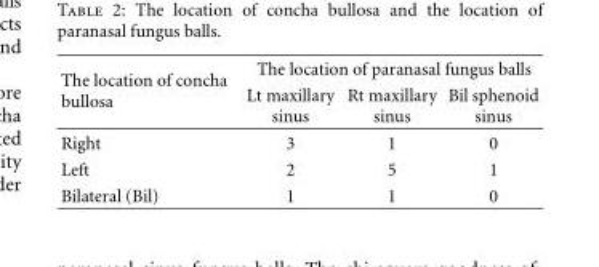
<table><thead><tr><td rowspan="2">The location of concha bullosa</td><td colspan="3">The location of paranasal fungus balls</td></tr><tr><td>Lt maxillary sinus</td><td>Rt maxillary sinus</td><td>Bil sphenoid sinus</td></tr></thead><tbody><tr><td>Right</td><td>3</td><td>1</td><td>0</td></tr><tr><td>Left</td><td>2</td><td>5</td><td>1</td></tr><tr><td>Bilateral (Bil)</td><td>1</td><td>1</td><td>0</td></tr></tbody></table>